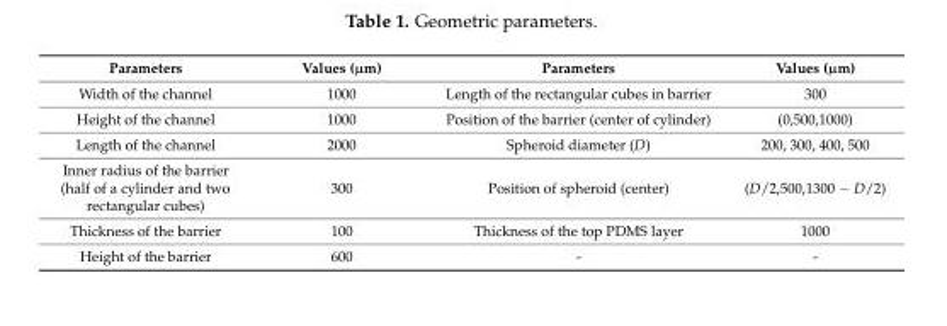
<table><thead><tr><td>Parameters</td><td>Values (µm)</td><td>Parameters</td><td>Values (µm)</td></tr></thead><tbody><tr><td>Width of the channel</td><td>1000</td><td>Length of the rectangular cubes in barrier</td><td>300</td></tr><tr><td>Height of the channel</td><td>1000</td><td>Position of the barrier (center of cylinder)</td><td>(0,500,1000)</td></tr><tr><td>Length of the channel</td><td>2000</td><td>Spheroid diameter (D)</td><td>200, 300, 400, 500</td></tr><tr><td>Inner radius of the barrier (half of a cylinder and two rectangular cubes)</td><td>300</td><td>Position of spheroid (center)</td><td>(D/2,500,1300 − D/2)</td></tr><tr><td>Thickness of the barrier</td><td>100</td><td>Thickness of the top PDMS layer</td><td>1000</td></tr><tr><td>Height of the barrier</td><td>600</td><td>-</td><td>-</td></tr></tbody></table>